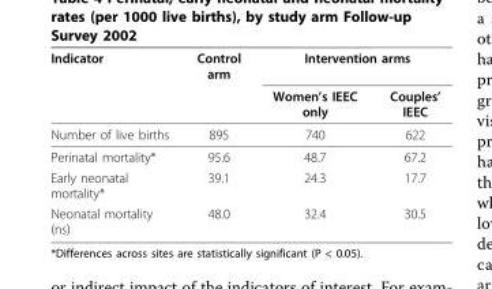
<table><thead><tr><td rowspan="2">Indicator</td><td rowspan="2">Control arm</td><td colspan="2">Intervention arms</td></tr><tr><td>Women’s IEEC only</td><td>Couples’ IEEC</td></tr></thead><tbody><tr><td>Number of live births</td><td>895</td><td>740</td><td>622</td></tr><tr><td>Perinatal mortality*</td><td>95.6</td><td>48.7</td><td>67.2</td></tr><tr><td>Early neonatal mortality*</td><td>39.1</td><td>24.3</td><td>17.7</td></tr><tr><td>Neonatal mortality (ns)</td><td>48.0</td><td>32.4</td><td>30.5</td></tr></tbody></table>